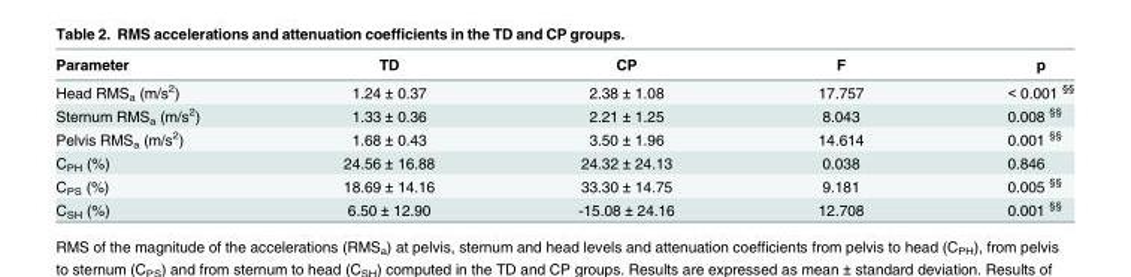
<table><thead><tr><td>Parameter</td><td>TD</td><td>CP</td><td>F</td><td>p</td></tr></thead><tbody><tr><td>Head RMS<sub>a</sub> (m/s<sup>2</sup>)</td><td>1.24 ± 0.37</td><td>2.38 ± 1.08</td><td>17.757</td><td>&lt; 0.001 <sup>§§</sup></td></tr><tr><td>Sternum RMS<sub>a</sub> (m/s<sup>2</sup>)</td><td>1.33 ± 0.36</td><td>2.21 ± 1.25</td><td>8.043</td><td>0.008 <sup>§§</sup></td></tr><tr><td>Pelvis RMS<sub>a</sub> (m/s<sup>2</sup>)</td><td>1.68 ± 0.43</td><td>3.50 ± 1.96</td><td>14.614</td><td>0.001 <sup>§§</sup></td></tr><tr><td>C<sub>PH</sub> (%)</td><td>24.56 ± 16.88</td><td>24.32 ± 24.13</td><td>0.038</td><td>0.846</td></tr><tr><td>C<sub>PS</sub> (%)</td><td>18.69 ± 14.16</td><td>33.30 ± 14.75</td><td>9.181</td><td>0.005 <sup>§§</sup></td></tr><tr><td>C<sub>SH</sub> (%)</td><td>6.50 ± 12.90</td><td>-15.08 ± 24.16</td><td>12.708</td><td>0.001 <sup>§§</sup></td></tr></tbody></table>